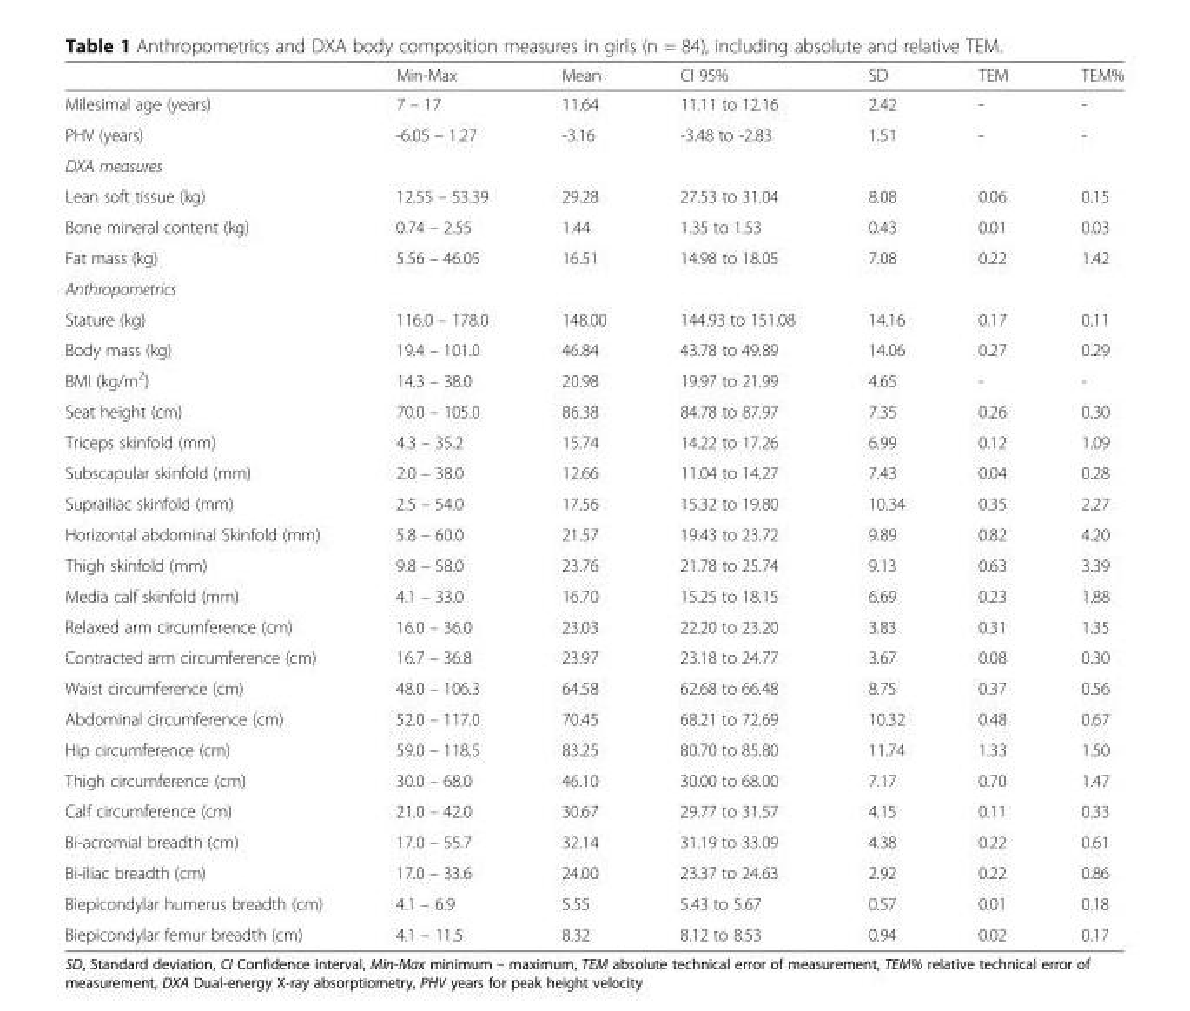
<table><thead><tr><td></td><td>Min-Max</td><td>Mean</td><td>CI 95%</td><td>SD</td><td>TEM</td><td>TEM%</td></tr></thead><tbody><tr><td>Milesimal age (years)</td><td>7 – 17</td><td>11.64</td><td>11.11 to 12.16</td><td>2.42</td><td>-</td><td>-</td></tr><tr><td>PHV (years)</td><td>-6.05 – 1.27</td><td>-3.16</td><td>-3.48 to -2.83</td><td>1.51</td><td>-</td><td>-</td></tr><tr><td colspan="7">DXA measures</td></tr><tr><td>Lean soft tissue (kg)</td><td>12.55 – 53.39</td><td>29.28</td><td>27.53 to 31.04</td><td>8.08</td><td>0.06</td><td>0.15</td></tr><tr><td>Bone mineral content (kg)</td><td>0.74 – 2.55</td><td>1.44</td><td>1.35 to 1.53</td><td>0.43</td><td>0.01</td><td>0.03</td></tr><tr><td>Fat mass (kg)</td><td>5.56 – 46.05</td><td>16.51</td><td>14.98 to 18.05</td><td>7.08</td><td>0.22</td><td>1.42</td></tr><tr><td colspan="7">Anthropometrics</td></tr><tr><td>Stature (kg)</td><td>116.0 – 178.0</td><td>148.00</td><td>144.93 to 151.08</td><td>14.16</td><td>0.17</td><td>0.11</td></tr><tr><td>Body mass (kg)</td><td>19.4 – 101.0</td><td>46.84</td><td>43.78 to 49.89</td><td>14.06</td><td>0.27</td><td>0.29</td></tr><tr><td>BMI (kg/m<sup>2</sup>)</td><td>14.3 – 38.0</td><td>20.98</td><td>19.97 to 21.99</td><td>4.65</td><td>-</td><td>-</td></tr><tr><td>Seat height (cm)</td><td>70.0 – 105.0</td><td>86.38</td><td>84.78 to 87.97</td><td>7.35</td><td>0.26</td><td>0.30</td></tr><tr><td>Triceps skinfold (mm)</td><td>4.3 – 35.2</td><td>15.74</td><td>14.22 to 17.26</td><td>6.99</td><td>0.12</td><td>1.09</td></tr><tr><td>Subscapular skinfold (mm)</td><td>2.0 – 38.0</td><td>12.66</td><td>11.04 to 14.27</td><td>7.43</td><td>0.04</td><td>0.28</td></tr><tr><td>Suprailiac skinfold (mm)</td><td>2.5 – 54.0</td><td>17.56</td><td>15.32 to 19.80</td><td>10.34</td><td>0.35</td><td>2.27</td></tr><tr><td>Horizontal abdominal Skinfold (mm)</td><td>5.8 – 60.0</td><td>21.57</td><td>19.43 to 23.72</td><td>9.89</td><td>0.82</td><td>4.20</td></tr><tr><td>Thigh skinfold (mm)</td><td>9.8 – 58.0</td><td>23.76</td><td>21.78 to 25.74</td><td>9.13</td><td>0.63</td><td>3.39</td></tr><tr><td>Media calf skinfold (mm)</td><td>4.1 – 33.0</td><td>16.70</td><td>15.25 to 18.15</td><td>6.69</td><td>0.23</td><td>1.88</td></tr><tr><td>Relaxed arm circumference (cm)</td><td>16.0 – 36.0</td><td>23.03</td><td>22.20 to 23.20</td><td>3.83</td><td>0.31</td><td>1.35</td></tr><tr><td>Contracted arm circumference (cm)</td><td>16.7 – 36.8</td><td>23.97</td><td>23.18 to 24.77</td><td>3.67</td><td>0.08</td><td>0.30</td></tr><tr><td>Waist circumference (cm)</td><td>48.0 – 106.3</td><td>64.58</td><td>62.68 to 66.48</td><td>8.75</td><td>0.37</td><td>0.56</td></tr><tr><td>Abdominal circumference (cm)</td><td>52.0 – 117.0</td><td>70.45</td><td>68.21 to 72.69</td><td>10.32</td><td>0.48</td><td>0.67</td></tr><tr><td>Hip circumference (cm)</td><td>59.0 – 118.5</td><td>83.25</td><td>80.70 to 85.80</td><td>11.74</td><td>1.33</td><td>1.50</td></tr><tr><td>Thigh circumference (cm)</td><td>30.0 – 68.0</td><td>46.10</td><td>30.00 to 68.00</td><td>7.17</td><td>0.70</td><td>1.47</td></tr><tr><td>Calf circumference (cm)</td><td>21.0 – 42.0</td><td>30.67</td><td>29.77 to 31.57</td><td>4.15</td><td>0.11</td><td>0.33</td></tr><tr><td>Bi-acromial breadth (cm)</td><td>17.0 – 55.7</td><td>32.14</td><td>31.19 to 33.09</td><td>4.38</td><td>0.22</td><td>0.61</td></tr><tr><td>Bi-iliac breadth (cm)</td><td>17.0 – 33.6</td><td>24.00</td><td>23.37 to 24.63</td><td>2.92</td><td>0.22</td><td>0.86</td></tr><tr><td>Biepicondylar humerus breadth (cm)</td><td>4.1 – 6.9</td><td>5.55</td><td>5.43 to 5.67</td><td>0.57</td><td>0.01</td><td>0.18</td></tr><tr><td>Biepicondylar femur breadth (cm)</td><td>4.1 – 11.5</td><td>8.32</td><td>8.12 to 8.53</td><td>0.94</td><td>0.02</td><td>0.17</td></tr></tbody></table>